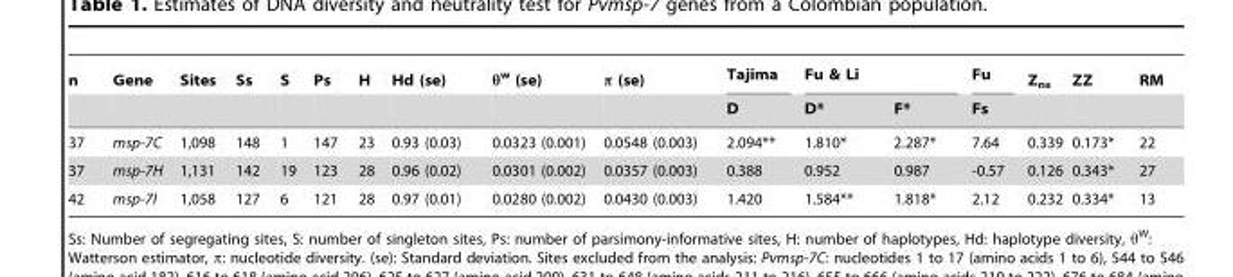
<table><thead><tr><td rowspan="2">n</td><td rowspan="2">Gene</td><td rowspan="2">Sites</td><td rowspan="2">Ss</td><td rowspan="2">S</td><td rowspan="2">Ps</td><td rowspan="2">H</td><td rowspan="2">Hd (se)</td><td rowspan="2">θ<sup>w</sup> (se)</td><td rowspan="2">π (se)</td><td rowspan="2">Tajima D</td><td colspan="2">Fu &amp; Li</td><td rowspan="2">Fu Fs</td><td rowspan="2">Z<sub>ns</sub></td><td rowspan="2">ZZ</td><td rowspan="2">RM</td></tr><tr><td>D*</td><td>F*</td></tr></thead><tbody><tr><td>37</td><td>msp-7C</td><td>1,098</td><td>148</td><td>1</td><td>147</td><td>23</td><td>0.93 (0.03)</td><td>0.0323 (0.001)</td><td>0.0548 (0.003)</td><td>2.094**</td><td>1.810*</td><td>2.287*</td><td>7.64</td><td>0.339</td><td>0.173*</td><td>22</td></tr><tr><td>37</td><td>msp-7H</td><td>1,131</td><td>142</td><td>19</td><td>123</td><td>28</td><td>0.96 (0.02)</td><td>0.0301 (0.002)</td><td>0.0357 (0.003)</td><td>0.388</td><td>0.952</td><td>0.987</td><td>-0.57</td><td>0.126</td><td>0.343*</td><td>27</td></tr><tr><td>42</td><td>msp-7I</td><td>1,058</td><td>127</td><td>6</td><td>121</td><td>28</td><td>0.97 (0.01)</td><td>0.0280 (0.002)</td><td>0.0430 (0.003)</td><td>1.420</td><td>1.584**</td><td>1.818*</td><td>2.12</td><td>0.232</td><td>0.334*</td><td>13</td></tr></tbody></table>